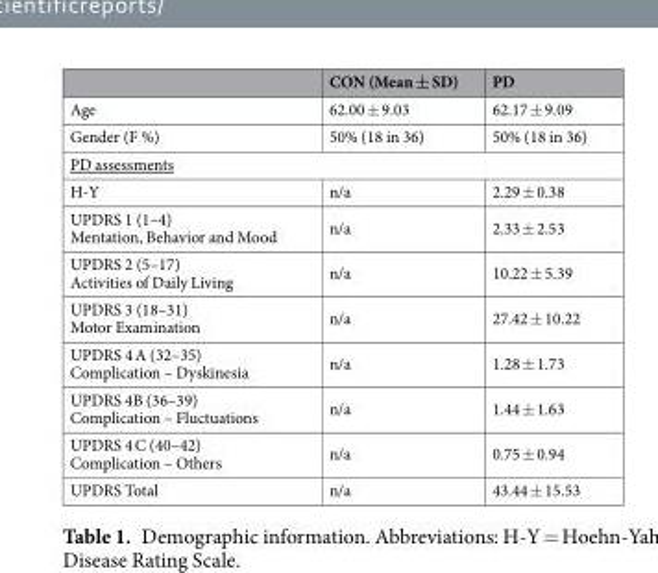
<table><thead><tr><td></td><td>CON (Mean ± SD)</td><td>PD</td></tr></thead><tbody><tr><td>Age</td><td>62.00 ± 9.03</td><td>62.17 ± 9.09</td></tr><tr><td>Gender (F %)</td><td>50% (18 in 36)</td><td>50% (18 in 36)</td></tr><tr><td colspan="3">PD assessments</td></tr><tr><td>H-Y</td><td>n/a</td><td>2.29 ± 0.38</td></tr><tr><td>UPDRS 1 (1–4) Mentation, Behavior and Mood</td><td>n/a</td><td>2.33 ± 2.53</td></tr><tr><td>UPDRS 2 (5–17) Activities of Daily Living</td><td>n/a</td><td>10.22 ± 5.39</td></tr><tr><td>UPDRS 3 (18–31) Motor Examination</td><td>n/a</td><td>27.42 ± 10.22</td></tr><tr><td>UPDRS 4 A (32–35) Complication – Dyskinesia</td><td>n/a</td><td>1.28 ± 1.73</td></tr><tr><td>UPDRS 4B (36–39) Complication – Fluctuations</td><td>n/a</td><td>1.44 ± 1.63</td></tr><tr><td>UPDRS 4 C (40–42) Complication – Others</td><td>n/a</td><td>0.75 ± 0.94</td></tr><tr><td>UPDRS Total</td><td>n/a</td><td>43.44 ± 15.53</td></tr></tbody></table>